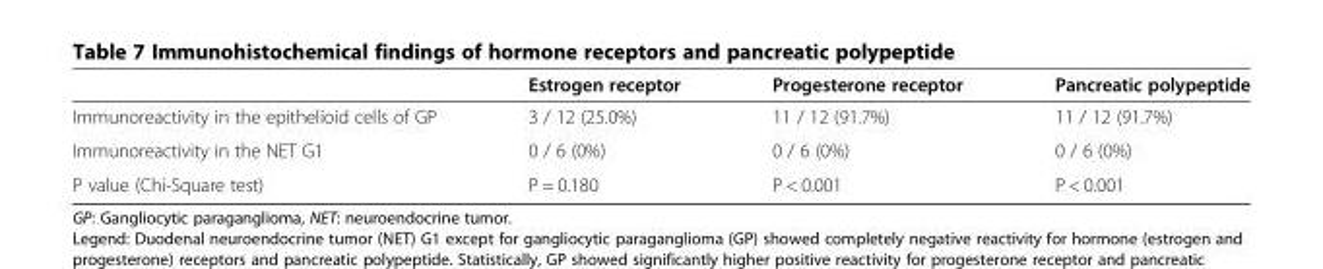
<table><thead><tr><td></td><td>Estrogen receptor</td><td>Progesterone receptor</td><td>Pancreatic polypeptide</td></tr></thead><tbody><tr><td>Immunoreactivity in the epithelioid cells of GP</td><td>3 / 12 (25.0%)</td><td>11 / 12 (91.7%)</td><td>11 / 12 (91.7%)</td></tr><tr><td>Immunoreactivity in the NET G1</td><td>0 / 6 (0%)</td><td>0 / 6 (0%)</td><td>0 / 6 (0%)</td></tr><tr><td>P value (Chi-Square test)</td><td>P = 0.180</td><td>P &lt; 0.001</td><td>P &lt; 0.001</td></tr></tbody></table>